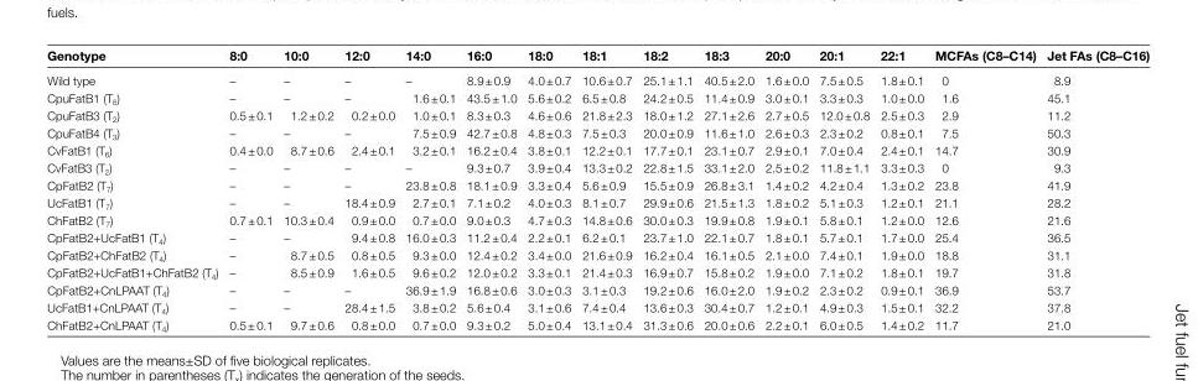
<table><thead><tr><td>Genotype</td><td>8:0</td><td>10:0</td><td>12:0</td><td>14:0</td><td>16:0</td><td>18:0</td><td>18:1</td><td>18:2</td><td>18:3</td><td>20:0</td><td>20:1</td><td>22:1</td><td>MCFAs (C8–C14)</td><td>Jet FAs (C8–C16)</td></tr></thead><tbody><tr><td>Wild type</td><td>–</td><td>–</td><td>–</td><td>–</td><td>8.9 ± 0.9</td><td>4.0 ± 0.7</td><td>10.6 ± 0.7</td><td>25.1 ± 1.1</td><td>40.5 ± 2.0</td><td>1.6 ± 0.0</td><td>7.5 ± 0.5</td><td>1.8 ± 0.1</td><td>0</td><td>8.9</td></tr><tr><td>CpuFatB1 (T<sub>6</sub>)</td><td>–</td><td>–</td><td>–</td><td>1.6 ± 0.1</td><td>43.5 ± 1.0</td><td>5.6 ± 0.2</td><td>6.5 ± 0.8</td><td>24.2 ± 0.5</td><td>11.4 ± 0.9</td><td>3.0 ± 0.1</td><td>3.3 ± 0.3</td><td>1.0 ± 0.0</td><td>1.6</td><td>45.1</td></tr><tr><td>CpuFatB3 (T<sub>2</sub>)</td><td>0.5 ± 0.1</td><td>1.2 ± 0.2</td><td>0.2 ± 0.0</td><td>1.0 ± 0.1</td><td>8.3 ± 0.3</td><td>4.6 ± 0.6</td><td>21.8 ± 2.3</td><td>18.0 ± 1.2</td><td>27.1 ± 2.6</td><td>2.7 ± 0.5</td><td>12.0 ± 0.8</td><td>2.5 ± 0.3</td><td>2.9</td><td>11.2</td></tr><tr><td>CpuFatB4 (T<sub>3</sub>)</td><td>–</td><td>–</td><td>–</td><td>7.5 ± 0.9</td><td>42.7 ± 0.8</td><td>4.8 ± 0.3</td><td>7.5 ± 0.3</td><td>20.0 ± 0.9</td><td>11.6 ± 1.0</td><td>2.6 ± 0.3</td><td>2.3 ± 0.2</td><td>0.8 ± 0.1</td><td>7.5</td><td>50.3</td></tr><tr><td>CvFatB1 (T<sub>6</sub>)</td><td>0.4 ± 0.0</td><td>8.7 ± 0.6</td><td>2.4 ± 0.1</td><td>3.2 ± 0.1</td><td>16.2 ± 0.4</td><td>3.8 ± 0.1</td><td>12.2 ± 0.1</td><td>17.7 ± 0.1</td><td>23.1 ± 0.7</td><td>2.9 ± 0.1</td><td>7.0 ± 0.4</td><td>2.4 ± 0.1</td><td>14.7</td><td>30.9</td></tr><tr><td>CvFatB3 (T<sub>2</sub>)</td><td>–</td><td>–</td><td>–</td><td>–</td><td>9.3 ± 0.7</td><td>3.9 ± 0.4</td><td>13.3 ± 0.2</td><td>22.8 ± 1.5</td><td>33.1 ± 2.0</td><td>2.5 ± 0.2</td><td>11.8 ± 1.1</td><td>3.3 ± 0.3</td><td>0</td><td>9.3</td></tr><tr><td>CpFatB2 (T<sub>7</sub>)</td><td>–</td><td>–</td><td>–</td><td>23.8 ± 0.8</td><td>18.1 ± 0.9</td><td>3.3 ± 0.4</td><td>5.6 ± 0.9</td><td>15.5 ± 0.9</td><td>26.8 ± 3.1</td><td>1.4 ± 0.2</td><td>4.2 ± 0.4</td><td>1.3 ± 0.2</td><td>23.8</td><td>41.9</td></tr><tr><td>UcFatB1 (T<sub>7</sub>)</td><td>–</td><td>–</td><td>18.4 ± 0.9</td><td>2.7 ± 0.1</td><td>7.1 ± 0.2</td><td>4.0 ± 0.3</td><td>8.1 ± 0.7</td><td>29.9 ± 0.6</td><td>21.5 ± 1.3</td><td>1.8 ± 0.2</td><td>5.1 ± 0.3</td><td>1.2 ± 0.1</td><td>21.1</td><td>28.2</td></tr><tr><td>ChFatB2 (T<sub>7</sub>)</td><td>0.7 ± 0.1</td><td>10.3 ± 0.4</td><td>0.9 ± 0.0</td><td>0.7 ± 0.0</td><td>9.0 ± 0.3</td><td>4.7 ± 0.3</td><td>14.8 ± 0.6</td><td>30.0 ± 0.3</td><td>19.9 ± 0.8</td><td>1.9 ± 0.1</td><td>5.8 ± 0.1</td><td>1.2 ± 0.0</td><td>12.6</td><td>21.6</td></tr><tr><td>CpFatB2+UcFatB1 (T<sub>4</sub>)</td><td>–</td><td>–</td><td>9.4 ± 0.8</td><td>16.0 ± 0.3</td><td>11.2 ± 0.4</td><td>2.2 ± 0.1</td><td>6.2 ± 0.1</td><td>23.7 ± 1.0</td><td>22.1 ± 0.7</td><td>1.8 ± 0.1</td><td>5.7 ± 0.1</td><td>1.7 ± 0.0</td><td>25.4</td><td>36.5</td></tr><tr><td>CpFatB2+ChFatB2 (T<sub>4</sub>)</td><td>–</td><td>8.7 ± 0.5</td><td>0.8 ± 0.5</td><td>9.3 ± 0.0</td><td>12.4 ± 0.2</td><td>3.4 ± 0.0</td><td>21.6 ± 0.9</td><td>16.2 ± 0.4</td><td>16.1 ± 0.5</td><td>2.1 ± 0.0</td><td>7.4 ± 0.1</td><td>1.9 ± 0.0</td><td>18.8</td><td>31.1</td></tr><tr><td>CpFatB2+UcFatB1+ChFatB2 (T<sub>4</sub>)</td><td>–</td><td>8.5 ± 0.9</td><td>1.6 ± 0.5</td><td>9.6 ± 0.2</td><td>12.0 ± 0.2</td><td>3.3 ± 0.1</td><td>21.4 ± 0.3</td><td>16.9 ± 0.7</td><td>15.8 ± 0.2</td><td>1.9 ± 0.0</td><td>7.1 ± 0.2</td><td>1.8 ± 0.1</td><td>19.7</td><td>31.8</td></tr><tr><td>CpFatB2+CnLPAAT (T<sub>4</sub>)</td><td>–</td><td>–</td><td>–</td><td>36.9 ± 1.9</td><td>16.8 ± 0.6</td><td>3.0 ± 0.3</td><td>3.1 ± 0.3</td><td>19.2 ± 0.6</td><td>16.0 ± 2.0</td><td>1.9 ± 0.2</td><td>2.3 ± 0.2</td><td>0.9 ± 0.1</td><td>36.9</td><td>53.7</td></tr><tr><td>UcFatB1+CnLPAAT (T<sub>4</sub>)</td><td>–</td><td>–</td><td>28.4 ± 1.5</td><td>3.8 ± 0.2</td><td>5.6 ± 0.4</td><td>3.1 ± 0.6</td><td>7.4 ± 0.4</td><td>13.6 ± 0.3</td><td>30.4 ± 0.7</td><td>1.2 ± 0.1</td><td>4.9 ± 0.3</td><td>1.5 ± 0.1</td><td>32.2</td><td>37.8</td></tr><tr><td>ChFatB2+CnLPAAT (T<sub>4</sub>)</td><td>0.5 ± 0.1</td><td>9.7 ± 0.6</td><td>0.8 ± 0.0</td><td>0.7 ± 0.0</td><td>9.3 ± 0.2</td><td>5.0 ± 0.4</td><td>13.1 ± 0.4</td><td>31.3 ± 0.6</td><td>20.0 ± 0.6</td><td>2.2 ± 0.1</td><td>6.0 ± 0.5</td><td>1.4 ± 0.2</td><td>11.7</td><td>21.0</td></tr></tbody></table>